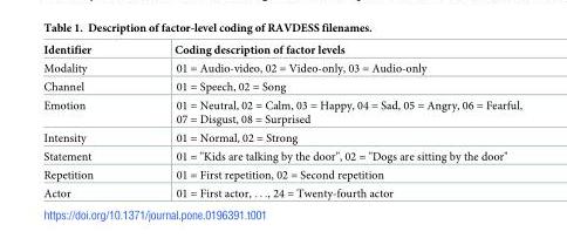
<table><thead><tr><td>Identifier</td><td>Coding description of factor levels</td></tr></thead><tbody><tr><td>Modality</td><td>01 = Audio-video, 02 = Video-only, 03 = Audio-only</td></tr><tr><td>Channel</td><td>01 = Speech, 02 = Song</td></tr><tr><td>Emotion</td><td>01 = Neutral, 02 = Calm, 03 = Happy, 04 = Sad, 05 = Angry, 06 = Fearful, 07 = Disgust, 08 = Surprised</td></tr><tr><td>Intensity</td><td>01 = Normal, 02 = Strong</td></tr><tr><td>Statement</td><td>01 = &quot;Kids are talking by the door&quot;, 02 = &quot;Dogs are sitting by the door&quot;</td></tr><tr><td>Repetition</td><td>01 = First repetition, 02 = Second repetition</td></tr><tr><td>Actor</td><td>01 = First actor, . . ., 24 = Twenty-fourth actor</td></tr></tbody></table>